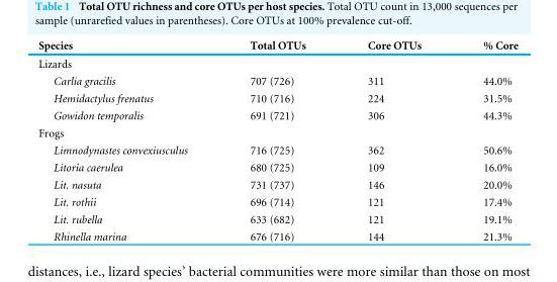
<table><thead><tr><td>Species</td><td>Total OTUs</td><td>Core OTUs</td><td>% Core</td></tr></thead><tbody><tr><td colspan="4">Lizards</td></tr><tr><td>Carlia gracilis</td><td>707 (726)</td><td>311</td><td>44.0%</td></tr><tr><td>Hemidactylus frenatus</td><td>710 (716)</td><td>224</td><td>31.5%</td></tr><tr><td>Gowidon temporalis</td><td>691 (721)</td><td>306</td><td>44.3%</td></tr><tr><td colspan="4">Frogs</td></tr><tr><td>Limnodynastes convexiusculus</td><td>716 (725)</td><td>362</td><td>50.6%</td></tr><tr><td>Litoria caerulea</td><td>680 (725)</td><td>109</td><td>16.0%</td></tr><tr><td>Lit. nasuta</td><td>731 (737)</td><td>146</td><td>20.0%</td></tr><tr><td>Lit. rothii</td><td>696 (714)</td><td>121</td><td>17.4%</td></tr><tr><td>Lit. rubella</td><td>633 (682)</td><td>121</td><td>19.1%</td></tr><tr><td>Rhinella marina</td><td>676 (716)</td><td>144</td><td>21.3%</td></tr></tbody></table>